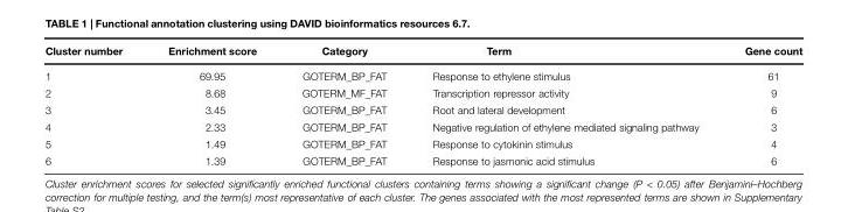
<table><thead><tr><td>Cluster number</td><td>Enrichment score</td><td>Category</td><td>Term</td><td>Gene count</td></tr></thead><tbody><tr><td>1</td><td>69.95</td><td>GOTERM_BP_FAT</td><td>Response to ethylene stimulus</td><td>61</td></tr><tr><td>2</td><td>8.68</td><td>GOTERM_MF_FAT</td><td>Transcription repressor activity</td><td>9</td></tr><tr><td>3</td><td>3.45</td><td>GOTERM_BP_FAT</td><td>Root and lateral development</td><td>6</td></tr><tr><td>4</td><td>2.33</td><td>GOTERM_BP_FAT</td><td>Negative regulation of ethylene mediated signaling pathway</td><td>3</td></tr><tr><td>5</td><td>1.49</td><td>GOTERM_BP_FAT</td><td>Response to cytokinin stimulus</td><td>4</td></tr><tr><td>6</td><td>1.39</td><td>GOTERM_BP_FAT</td><td>Response to jasmonic acid stimulus</td><td>6</td></tr></tbody></table>